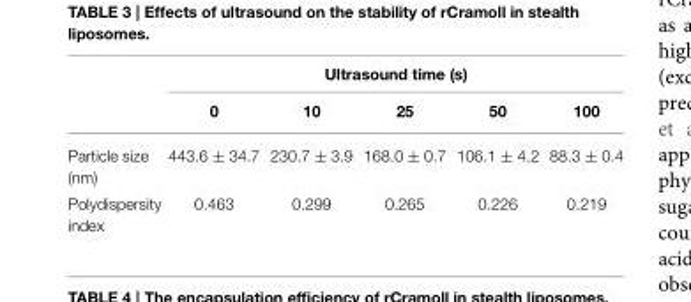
<table><thead><tr><td rowspan="2"></td><td colspan="5">Ultrasound time (s)</td></tr><tr><td>0</td><td>10</td><td>25</td><td>50</td><td>100</td></tr></thead><tbody><tr><td>Particle size (nm)</td><td>443.6 ± 34.7</td><td>230.7 ± 3.9</td><td>168.0 ± 0.7</td><td>106.1 ± 4.2</td><td>88.3 ± 0.4</td></tr><tr><td>Polydispersity index</td><td>0.463</td><td>0.299</td><td>0.265</td><td>0.226</td><td>0.219</td></tr></tbody></table>